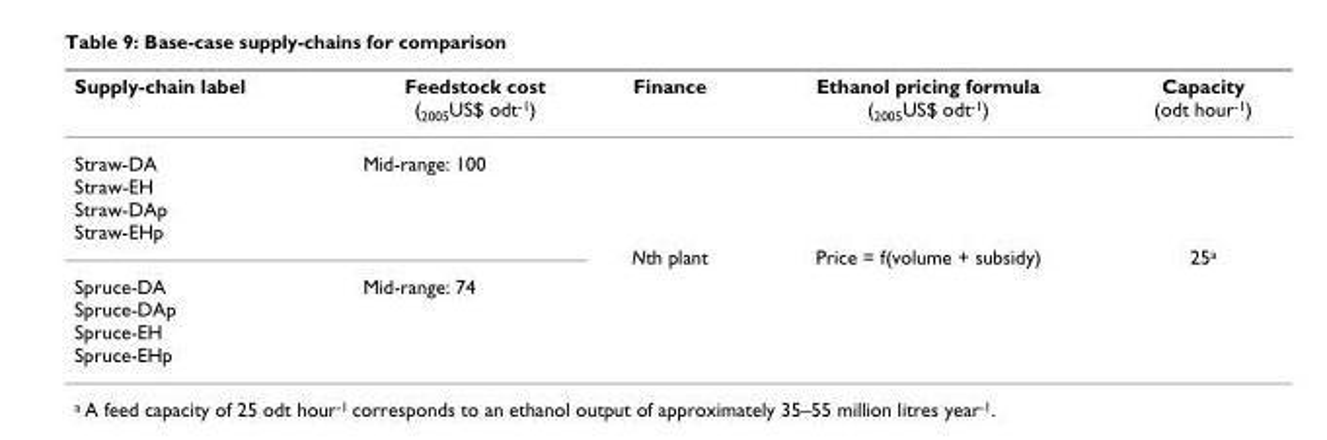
<table><thead><tr><td>Supply-chain label</td><td>Feedstock cost (<sub>2005</sub>US$ odt<sup>-1</sup>)</td><td>Finance</td><td>Ethanol pricing formula (<sub>2005</sub>US$ odt<sup>-1</sup>)</td><td>Capacity (odt hour<sup>-1</sup>)</td></tr></thead><tbody><tr><td>Straw-DA Straw-EH Straw-DAp Straw-EHp</td><td>Mid-range: 100</td><td></td><td></td><td></td></tr><tr><td colspan="2"></td><td>Nth plant</td><td>Price = f(volume + subsidy)</td><td>25<sup>a</sup></td></tr><tr><td>Spruce-DA Spruce-DAp Spruce-EH Spruce-EHp</td><td>Mid-range: 74</td><td></td><td></td><td></td></tr></tbody></table>